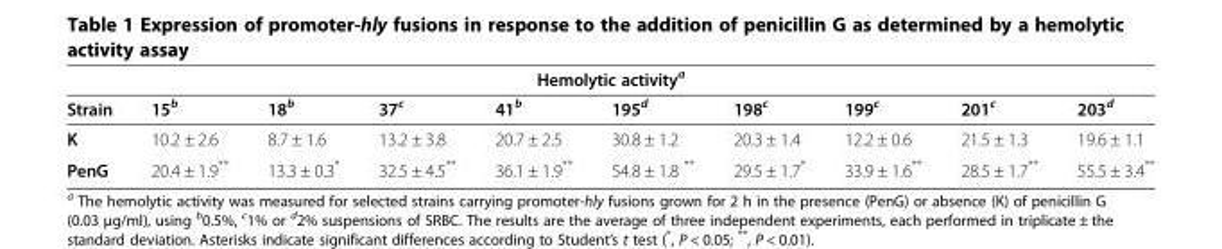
<table><thead><tr><td colspan="10">Hemolytic activity<sup>a</sup></td></tr><tr><td>Strain</td><td>15<sup>b</sup></td><td>18<sup>b</sup></td><td>37<sup>c</sup></td><td>41<sup>b</sup></td><td>195<sup>d</sup></td><td>198<sup>c</sup></td><td>199<sup>c</sup></td><td>201<sup>c</sup></td><td>203<sup>d</sup></td></tr></thead><tbody><tr><td>K</td><td>10.2 ± 2.6</td><td>8.7 ± 1.6</td><td>13.2 ± 3.8</td><td>20.7 ± 2.5</td><td>30.8 ± 1.2</td><td>20.3 ± 1.4</td><td>12.2 ± 0.6</td><td>21.5 ± 1.3</td><td>19.6 ± 1.1</td></tr><tr><td>PenG</td><td>20.4 ± 1.9**</td><td>13.3 ± 0.3*</td><td>32.5 ± 4.5**</td><td>36.1 ± 1.9**</td><td>54.8 ± 1.8 **</td><td>29.5 ± 1.7*</td><td>33.9 ± 1.6**</td><td>28.5 ± 1.7**</td><td>55.5 ± 3.4**</td></tr></tbody></table>